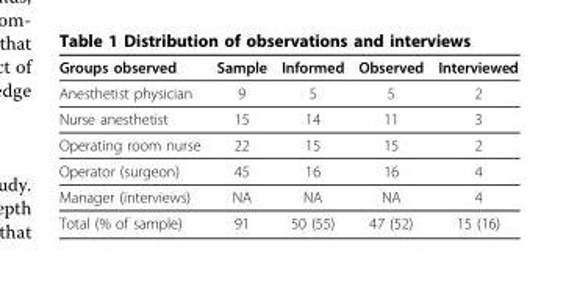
<table><thead><tr><td>Groups observed</td><td>Sample</td><td>Informed</td><td>Observed</td><td>Interviewed</td></tr></thead><tbody><tr><td>Anesthetist physician</td><td>9</td><td>5</td><td>5</td><td>2</td></tr><tr><td>Nurse anesthetist</td><td>15</td><td>14</td><td>11</td><td>3</td></tr><tr><td>Operating room nurse</td><td>22</td><td>15</td><td>15</td><td>2</td></tr><tr><td>Operator (surgeon)</td><td>45</td><td>16</td><td>16</td><td>4</td></tr><tr><td>Manager (interviews)</td><td>NA</td><td>NA</td><td>NA</td><td>4</td></tr><tr><td>Total (% of sample)</td><td>91</td><td>50 (55)</td><td>47 (52)</td><td>15 (16)</td></tr></tbody></table>